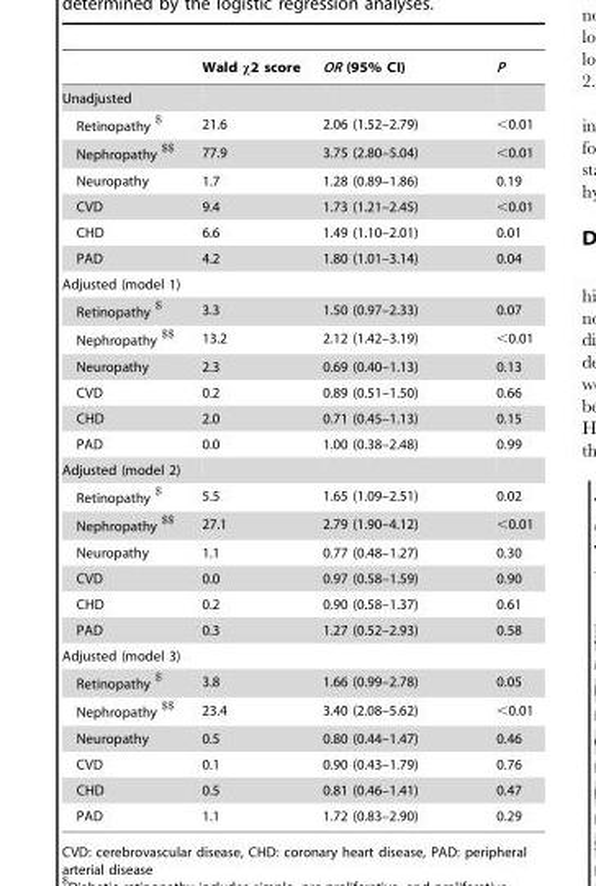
<table><thead><tr><td></td><td>Wald χ2 score</td><td>OR (95% CI)</td><td>P</td></tr></thead><tbody><tr><td colspan="4">Unadjusted</td></tr><tr><td>Retinopathy $</td><td>21.6</td><td>2.06 (1.52–2.79)</td><td>&lt;0.01</td></tr><tr><td>Nephropathy $$</td><td>77.9</td><td>3.75 (2.80–5.04)</td><td>&lt;0.01</td></tr><tr><td>Neuropathy</td><td>1.7</td><td>1.28 (0.89–1.86)</td><td>0.19</td></tr><tr><td>CVD</td><td>9.4</td><td>1.73 (1.21–2.45)</td><td>&lt;0.01</td></tr><tr><td>CHD</td><td>6.6</td><td>1.49 (1.10–2.01)</td><td>0.01</td></tr><tr><td>PAD</td><td>4.2</td><td>1.80 (1.01–3.14)</td><td>0.04</td></tr><tr><td colspan="4">Adjusted (model 1)</td></tr><tr><td>Retinopathy $</td><td>3.3</td><td>1.50 (0.97–2.33)</td><td>0.07</td></tr><tr><td>Nephropathy $$</td><td>13.2</td><td>2.12 (1.42–3.19)</td><td>&lt;0.01</td></tr><tr><td>Neuropathy</td><td>2.3</td><td>0.69 (0.40–1.13)</td><td>0.13</td></tr><tr><td>CVD</td><td>0.2</td><td>0.89 (0.51–1.50)</td><td>0.66</td></tr><tr><td>CHD</td><td>2.0</td><td>0.71 (0.45–1.13)</td><td>0.15</td></tr><tr><td>PAD</td><td>0.0</td><td>1.00 (0.38–2.48)</td><td>0.99</td></tr><tr><td colspan="4">Adjusted (model 2)</td></tr><tr><td>Retinopathy $</td><td>5.5</td><td>1.65 (1.09–2.51)</td><td>0.02</td></tr><tr><td>Nephropathy $$</td><td>27.1</td><td>2.79 (1.90–4.12)</td><td>&lt;0.01</td></tr><tr><td>Neuropathy</td><td>1.1</td><td>0.77 (0.48–1.27)</td><td>0.30</td></tr><tr><td>CVD</td><td>0.0</td><td>0.97 (0.58–1.59)</td><td>0.90</td></tr><tr><td>CHD</td><td>0.2</td><td>0.90 (0.58–1.37)</td><td>0.61</td></tr><tr><td>PAD</td><td>0.3</td><td>1.27 (0.52–2.93)</td><td>0.58</td></tr><tr><td colspan="4">Adjusted (model 3)</td></tr><tr><td>Retinopathy $</td><td>3.8</td><td>1.66 (0.99–2.78)</td><td>0.05</td></tr><tr><td>Nephropathy $$</td><td>23.4</td><td>3.40 (2.08–5.62)</td><td>&lt;0.01</td></tr><tr><td>Neuropathy</td><td>0.5</td><td>0.80 (0.44–1.47)</td><td>0.46</td></tr><tr><td>CVD</td><td>0.1</td><td>0.90 (0.43–1.79)</td><td>0.76</td></tr><tr><td>CHD</td><td>0.5</td><td>0.81 (0.46–1.41)</td><td>0.47</td></tr><tr><td>PAD</td><td>1.1</td><td>1.72 (0.83–2.90)</td><td>0.29</td></tr></tbody></table>